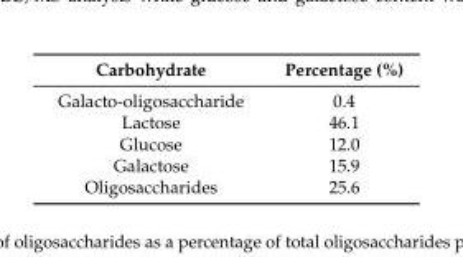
<table><thead><tr><td>Carbohydrate</td><td>Percentage (%)</td></tr></thead><tbody><tr><td>Galacto-oligosaccharide</td><td>0.4</td></tr><tr><td>Lactose</td><td>46.1</td></tr><tr><td>Glucose</td><td>12.0</td></tr><tr><td>Galactose</td><td>15.9</td></tr><tr><td>Oligosaccharides</td><td>25.6</td></tr></tbody></table>